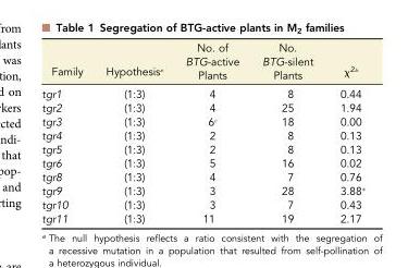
<table><thead><tr><td>Family</td><td>Hypothesis<sup>a</sup></td><td>No. of BTG-active Plants</td><td>No. BTG-silent Plants</td><td>χ<sup>2b</sup></td></tr></thead><tbody><tr><td>tgr1</td><td>(1:3)</td><td>4</td><td>8</td><td>0.44</td></tr><tr><td>tgr2</td><td>(1:3)</td><td>4</td><td>25</td><td>1.94</td></tr><tr><td>tgr3</td><td>(1:3)</td><td>6<sup>c</sup></td><td>18</td><td>0.00</td></tr><tr><td>tgr4</td><td>(1:3)</td><td>2</td><td>8</td><td>0.13</td></tr><tr><td>tgr5</td><td>(1:3)</td><td>2</td><td>8</td><td>0.13</td></tr><tr><td>tgr6</td><td>(1:3)</td><td>5</td><td>16</td><td>0.02</td></tr><tr><td>tgr8</td><td>(1:3)</td><td>4</td><td>7</td><td>0.76</td></tr><tr><td>tgr9</td><td>(1:3)</td><td>3</td><td>28</td><td>3.88*</td></tr><tr><td>tgr10</td><td>(1:3)</td><td>3</td><td>7</td><td>0.43</td></tr><tr><td>tgr11</td><td>(1:3)</td><td>11</td><td>19</td><td>2.17</td></tr></tbody></table>